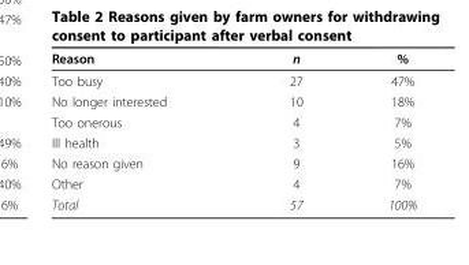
<table><thead><tr><td>Reason</td><td>n</td><td>%</td></tr></thead><tbody><tr><td>Too busy</td><td>27</td><td>47%</td></tr><tr><td>No longer interested</td><td>10</td><td>18%</td></tr><tr><td>Too onerous</td><td>4</td><td>7%</td></tr><tr><td>Ill health</td><td>3</td><td>5%</td></tr><tr><td>No reason given</td><td>9</td><td>16%</td></tr><tr><td>Other</td><td>4</td><td>7%</td></tr><tr><td>Total</td><td>57</td><td>100%</td></tr></tbody></table>